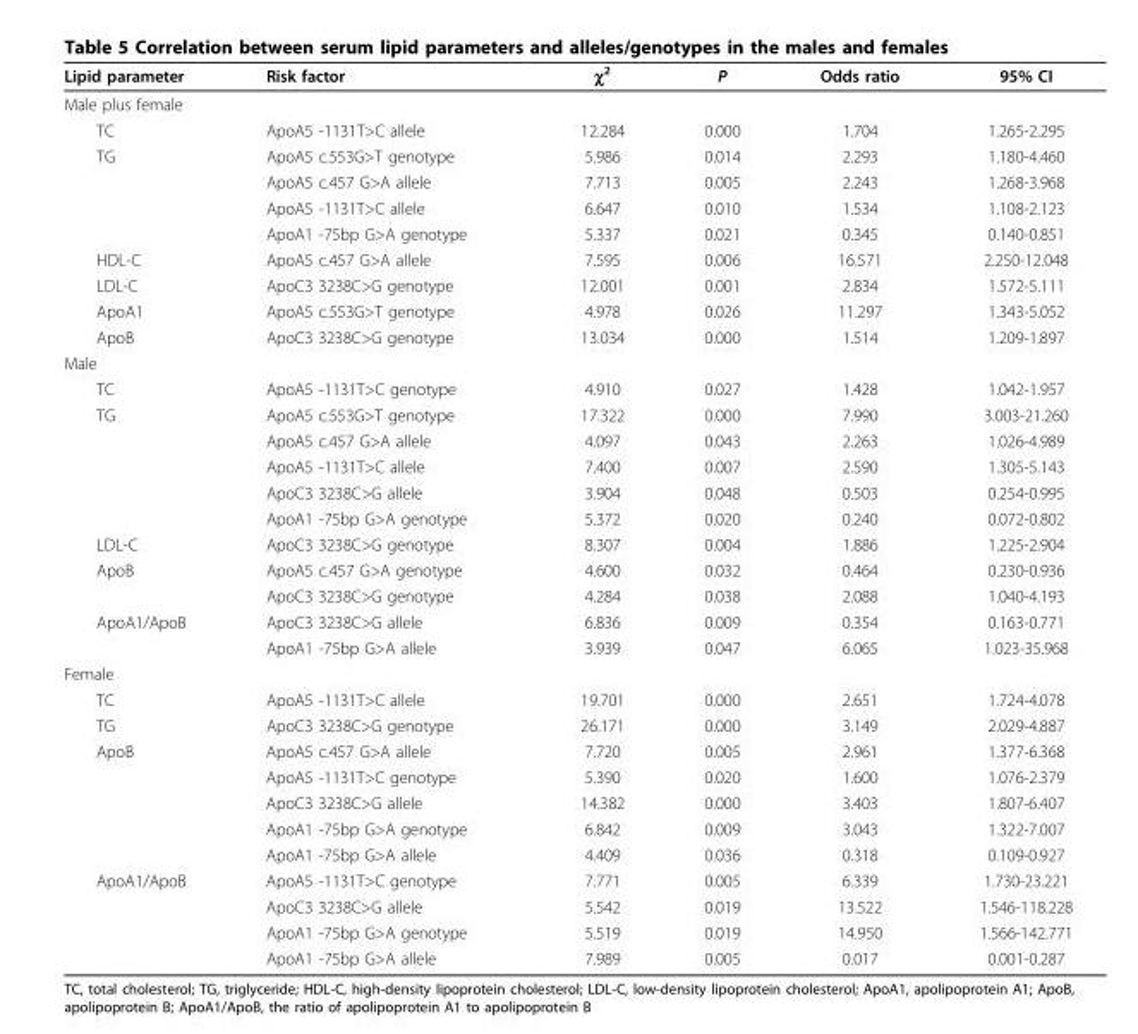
<table><thead><tr><td>Lipid parameter</td><td>Risk factor</td><td>χ<sup>2</sup></td><td>P</td><td>Odds ratio</td><td>95% CI</td></tr></thead><tbody><tr><td colspan="6">Male plus female</td></tr><tr><td>TC</td><td>ApoA5 -1131T&gt;C allele</td><td>12.284</td><td>0.000</td><td>1.704</td><td>1.265-2.295</td></tr><tr><td rowspan="4">TG</td><td>ApoA5 c.553G&gt;T genotype</td><td>5.986</td><td>0.014</td><td>2.293</td><td>1.180-4.460</td></tr><tr><td>ApoA5 c.457 G&gt;A allele</td><td>7.713</td><td>0.005</td><td>2.243</td><td>1.268-3.968</td></tr><tr><td>ApoA5 -1131T&gt;C allele</td><td>6.647</td><td>0.010</td><td>1.534</td><td>1.108-2.123</td></tr><tr><td>ApoA1 -75bp G&gt;A genotype</td><td>5.337</td><td>0.021</td><td>0.345</td><td>0.140-0.851</td></tr><tr><td>HDL-C</td><td>ApoA5 c.457 G&gt;A allele</td><td>7.595</td><td>0.006</td><td>16.571</td><td>2.250-12.048</td></tr><tr><td>LDL-C</td><td>ApoC3 3238C&gt;G genotype</td><td>12.001</td><td>0.001</td><td>2.834</td><td>1.572-5.111</td></tr><tr><td>ApoA1</td><td>ApoA5 c.553G&gt;T genotype</td><td>4.978</td><td>0.026</td><td>11.297</td><td>1.343-5.052</td></tr><tr><td>ApoB</td><td>ApoC3 3238C&gt;G genotype</td><td>13.034</td><td>0.000</td><td>1.514</td><td>1.209-1.897</td></tr><tr><td colspan="6">Male</td></tr><tr><td>TC</td><td>ApoA5 -1131T&gt;C genotype</td><td>4.910</td><td>0.027</td><td>1.428</td><td>1.042-1.957</td></tr><tr><td rowspan="5">TG</td><td>ApoA5 c.553G&gt;T genotype</td><td>17.322</td><td>0.000</td><td>7.990</td><td>3.003-21.260</td></tr><tr><td>ApoA5 c.457 G&gt;A allele</td><td>4.097</td><td>0.043</td><td>2.263</td><td>1.026-4.989</td></tr><tr><td>ApoA5 -1131T&gt;C allele</td><td>7.400</td><td>0.007</td><td>2.590</td><td>1.305-5.143</td></tr><tr><td>ApoC3 3238C&gt;G allele</td><td>3.904</td><td>0.048</td><td>0.503</td><td>0.254-0.995</td></tr><tr><td>ApoA1 -75bp G&gt;A genotype</td><td>5.372</td><td>0.020</td><td>0.240</td><td>0.072-0.802</td></tr><tr><td>LDL-C</td><td>ApoC3 3238C&gt;G genotype</td><td>8.307</td><td>0.004</td><td>1.886</td><td>1.225-2.904</td></tr><tr><td rowspan="2">ApoB</td><td>ApoA5 c.457 G&gt;A genotype</td><td>4.600</td><td>0.032</td><td>0.464</td><td>0.230-0.936</td></tr><tr><td>ApoC3 3238C&gt;G genotype</td><td>4.284</td><td>0.038</td><td>2.088</td><td>1.040-4.193</td></tr><tr><td rowspan="2">ApoA1/ApoB</td><td>ApoC3 3238C&gt;G allele</td><td>6.836</td><td>0.009</td><td>0.354</td><td>0.163-0.771</td></tr><tr><td>ApoA1 -75bp G&gt;A allele</td><td>3.939</td><td>0.047</td><td>6.065</td><td>1.023-35.968</td></tr><tr><td colspan="6">Female</td></tr><tr><td>TC</td><td>ApoA5 -1131T&gt;C allele</td><td>19.701</td><td>0.000</td><td>2.651</td><td>1.724-4.078</td></tr><tr><td>TG</td><td>ApoC3 3238C&gt;G genotype</td><td>26.171</td><td>0.000</td><td>3.149</td><td>2.029-4.887</td></tr><tr><td rowspan="5">ApoB</td><td>ApoA5 c.457 G&gt;A allele</td><td>7.720</td><td>0.005</td><td>2.961</td><td>1.377-6.368</td></tr><tr><td>ApoA5 -1131T&gt;C genotype</td><td>5.390</td><td>0.020</td><td>1.600</td><td>1.076-2.379</td></tr><tr><td>ApoC3 3238C&gt;G allele</td><td>14.382</td><td>0.000</td><td>3.403</td><td>1.807-6.407</td></tr><tr><td>ApoA1 -75bp G&gt;A genotype</td><td>6.842</td><td>0.009</td><td>3.043</td><td>1.322-7.007</td></tr><tr><td>ApoA1 -75bp G&gt;A allele</td><td>4.409</td><td>0.036</td><td>0.318</td><td>0.109-0.927</td></tr><tr><td rowspan="4">ApoA1/ApoB</td><td>ApoA5 -1131T&gt;C genotype</td><td>7.771</td><td>0.005</td><td>6.339</td><td>1.730-23.221</td></tr><tr><td>ApoC3 3238C&gt;G allele</td><td>5.542</td><td>0.019</td><td>13.522</td><td>1.546-118.228</td></tr><tr><td>ApoA1 -75bp G&gt;A genotype</td><td>5.519</td><td>0.019</td><td>14.950</td><td>1.566-142.771</td></tr><tr><td>ApoA1 -75bp G&gt;A allele</td><td>7.989</td><td>0.005</td><td>0.017</td><td>0.001-0.287</td></tr></tbody></table>